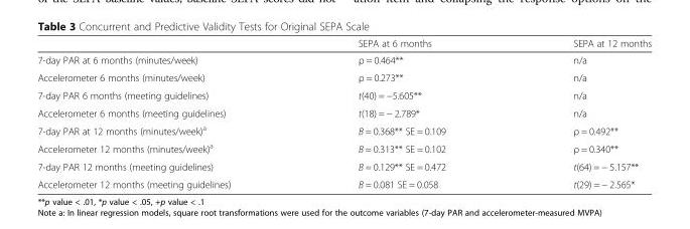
<table><thead><tr><td></td><td>SEPA at 6 months</td><td>SEPA at 12 months</td></tr></thead><tbody><tr><td>7-day PAR at 6 months (minutes/week)</td><td>ρ = 0.464**</td><td>n/a</td></tr><tr><td>Accelerometer 6 months (minutes/week)</td><td>ρ = 0.273**</td><td>n/a</td></tr><tr><td>7-day PAR 6 months (meeting guidelines)</td><td>t(40) = −5.605**</td><td>n/a</td></tr><tr><td>Accelerometer 6 months (meeting guidelines)</td><td>t(18) = − 2.789*</td><td>n/a</td></tr><tr><td>7-day PAR at 12 months (minutes/week)<sup>a</sup></td><td>B = 0.368** SE = 0.109</td><td>ρ = 0.492**</td></tr><tr><td>Accelerometer 12 months (minutes/week)<sup>a</sup></td><td>B = 0.313** SE = 0.102</td><td>ρ = 0.340**</td></tr><tr><td>7-day PAR 12 months (meeting guidelines)</td><td>B = 0.129** SE = 0.472</td><td>t(64) = − 5.157**</td></tr><tr><td>Accelerometer 12 months (meeting guidelines)</td><td>B = 0.081 SE = 0.058</td><td>t(29) = − 2.565*</td></tr></tbody></table>